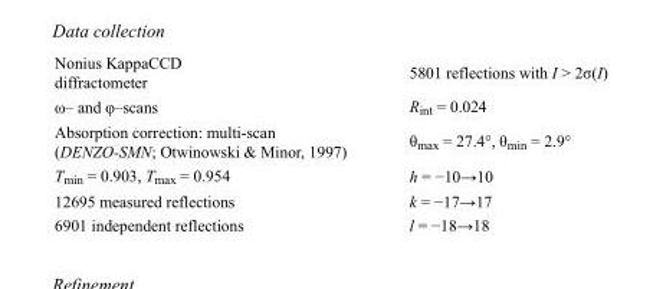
<table><tbody><tr><td>Nonius KappaCCD diffractometer</td><td>5801 reflections with I &gt; 2σ(I)</td></tr><tr><td>ω– and φ–scans</td><td>R<sub>int</sub> = 0.024</td></tr><tr><td>Absorption correction: multi-scan (DENZO-SMN; Otwinowski &amp; Minor, 1997)</td><td>θ<sub>max</sub> = 27.4°, θ<sub>min</sub> = 2.9°</td></tr><tr><td>T<sub>min</sub> = 0.903, T<sub>max</sub> = 0.954</td><td>h = −10→10</td></tr><tr><td>12695 measured reflections</td><td>k = −17→17</td></tr><tr><td>6901 independent reflections</td><td>l = −18→18</td></tr></tbody></table>